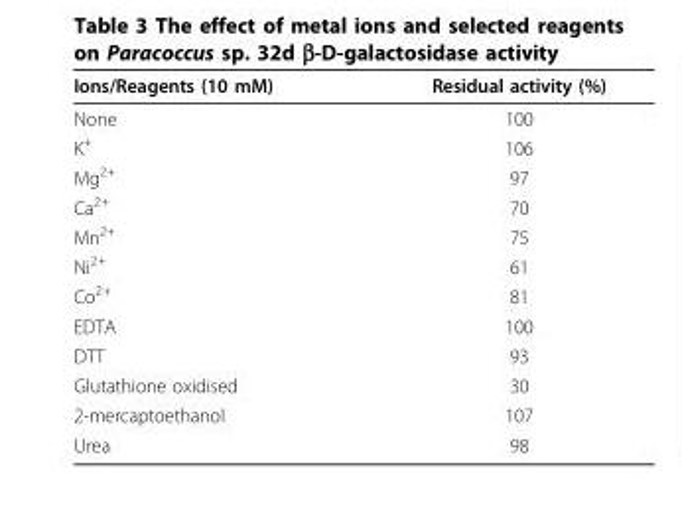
<table><thead><tr><td>Ions/Reagents (10 mM)</td><td>Residual activity (%)</td></tr></thead><tbody><tr><td>None</td><td>100</td></tr><tr><td>K<sup>+</sup></td><td>106</td></tr><tr><td>Mg<sup>2+</sup></td><td>97</td></tr><tr><td>Ca<sup>2+</sup></td><td>70</td></tr><tr><td>Mn<sup>2+</sup></td><td>75</td></tr><tr><td>Ni<sup>2+</sup></td><td>61</td></tr><tr><td>Co<sup>2+</sup></td><td>81</td></tr><tr><td>EDTA</td><td>100</td></tr><tr><td>DTT</td><td>93</td></tr><tr><td>Glutathione oxidised</td><td>30</td></tr><tr><td>2-mercaptoethanol</td><td>107</td></tr><tr><td>Urea</td><td>98</td></tr></tbody></table>